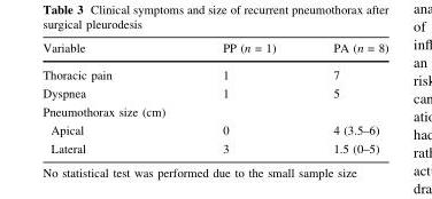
<table><thead><tr><td>Variable</td><td>PP (n = 1)</td><td>PA (n = 8)</td></tr></thead><tbody><tr><td>Thoracic pain</td><td>1</td><td>7</td></tr><tr><td>Dyspnea</td><td>1</td><td>5</td></tr><tr><td colspan="3">Pneumothorax size (cm)</td></tr><tr><td>Apical</td><td>0</td><td>4 (3.5–6)</td></tr><tr><td>Lateral</td><td>3</td><td>1.5 (0–5)</td></tr></tbody></table>